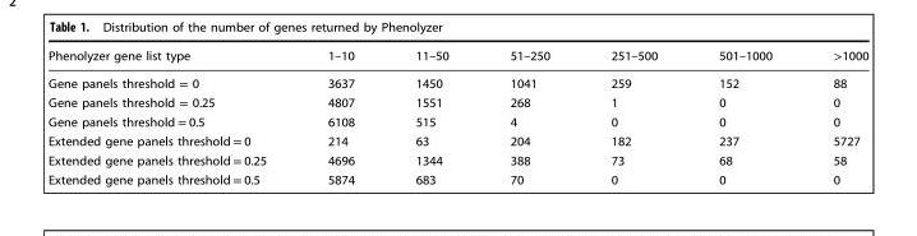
<table><thead><tr><td>Phenolyzer gene list type</td><td>1–10</td><td>11–50</td><td>51–250</td><td>251–500</td><td>501–1000</td><td>&gt;1000</td></tr></thead><tbody><tr><td>Gene panels threshold = 0</td><td>3637</td><td>1450</td><td>1041</td><td>259</td><td>152</td><td>88</td></tr><tr><td>Gene panels threshold = 0.25</td><td>4807</td><td>1551</td><td>268</td><td>1</td><td>0</td><td>0</td></tr><tr><td>Gene panels threshold = 0.5</td><td>6108</td><td>515</td><td>4</td><td>0</td><td>0</td><td>0</td></tr><tr><td>Extended gene panels threshold = 0</td><td>214</td><td>63</td><td>204</td><td>182</td><td>237</td><td>5727</td></tr><tr><td>Extended gene panels threshold = 0.25</td><td>4696</td><td>1344</td><td>388</td><td>73</td><td>68</td><td>58</td></tr><tr><td>Extended gene panels threshold = 0.5</td><td>5874</td><td>683</td><td>70</td><td>0</td><td>0</td><td>0</td></tr></tbody></table>